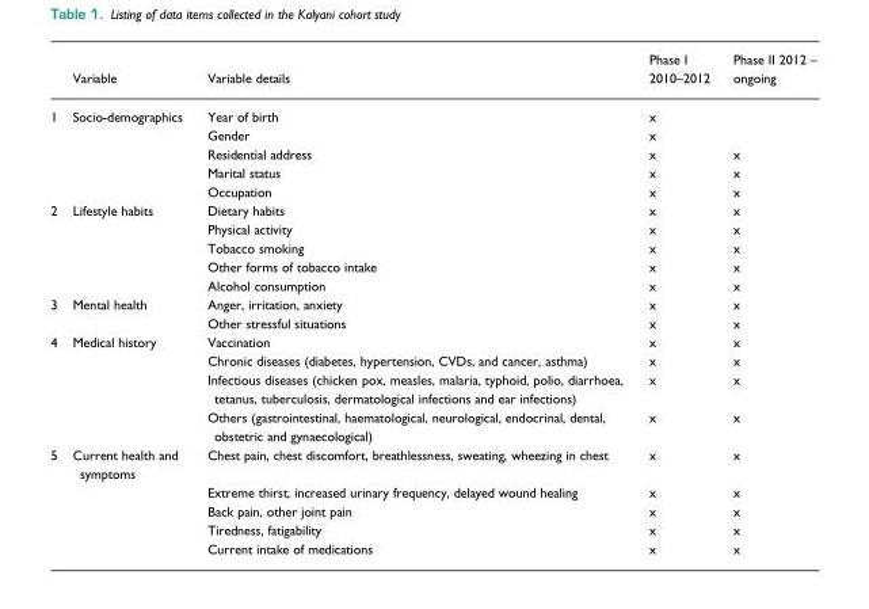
<table><thead><tr><td></td><td>Variable</td><td>Variable details</td><td>Phase I 2010–2012</td><td>Phase II 2012 – ongoing</td></tr></thead><tbody><tr><td rowspan="5">1</td><td>Socio-demographics</td><td>Year of birth</td><td>x</td><td></td></tr><tr><td></td><td>Gender</td><td>x</td><td></td></tr><tr><td></td><td>Residential address</td><td>x</td><td>x</td></tr><tr><td></td><td>Marital status</td><td>x</td><td>x</td></tr><tr><td></td><td>Occupation</td><td>x</td><td>x</td></tr><tr><td rowspan="5">2</td><td>Lifestyle habits</td><td>Dietary habits</td><td>x</td><td>x</td></tr><tr><td></td><td>Physical activity</td><td>x</td><td>x</td></tr><tr><td></td><td>Tobacco smoking</td><td>x</td><td>x</td></tr><tr><td></td><td>Other forms of tobacco intake</td><td>x</td><td>x</td></tr><tr><td></td><td>Alcohol consumption</td><td>x</td><td>x</td></tr><tr><td rowspan="2">3</td><td>Mental health</td><td>Anger, irritation, anxiety</td><td>x</td><td>x</td></tr><tr><td></td><td>Other stressful situations</td><td>x</td><td>x</td></tr><tr><td rowspan="4">4</td><td>Medical history</td><td>Vaccination</td><td>x</td><td>x</td></tr><tr><td></td><td>Chronic diseases (diabetes, hypertension, CVDs, and cancer, asthma)</td><td>x</td><td>x</td></tr><tr><td></td><td>Infectious diseases (chicken pox, measles, malaria, typhoid, polio, diarrhoea, tetanus, tuberculosis, dermatological infections and ear infections)</td><td>x</td><td>x</td></tr><tr><td></td><td>Others (gastrointestinal, haematological, neurological, endocrinal, dental, obstetric and gynaecological)</td><td>x</td><td>x</td></tr><tr><td rowspan="5">5</td><td>Current health and symptoms</td><td>Chest pain, chest discomfort, breathlessness, sweating, wheezing in chest</td><td>x</td><td>x</td></tr><tr><td></td><td>Extreme thirst, increased urinary frequency, delayed wound healing</td><td>x</td><td>x</td></tr><tr><td></td><td>Back pain, other joint pain</td><td>x</td><td>x</td></tr><tr><td></td><td>Tiredness, fatigability</td><td>x</td><td>x</td></tr><tr><td></td><td>Current intake of medications</td><td>x</td><td>x</td></tr></tbody></table>